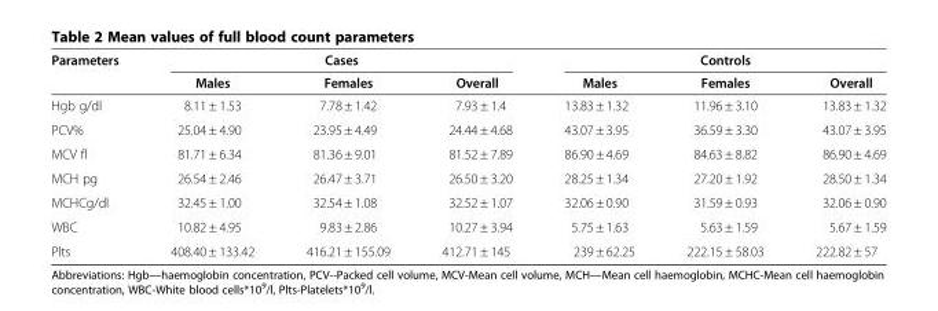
<table><thead><tr><td rowspan="2">Parameters</td><td colspan="3">Cases</td><td colspan="3">Controls</td></tr><tr><td>Males</td><td>Females</td><td>Overall</td><td>Males</td><td>Females</td><td>Overall</td></tr></thead><tbody><tr><td>Hgb g/dl</td><td>8.11 ± 1.53</td><td>7.78 ± 1.42</td><td>7.93 ± 1.4</td><td>13.83 ± 1.32</td><td>11.96 ± 3.10</td><td>13.83 ± 1.32</td></tr><tr><td>PCV%</td><td>25.04 ± 4.90</td><td>23.95 ± 4.49</td><td>24.44 ± 4.68</td><td>43.07 ± 3.95</td><td>36.59 ± 3.30</td><td>43.07 ± 3.95</td></tr><tr><td>MCV fl</td><td>81.71 ± 6.34</td><td>81.36 ± 9.01</td><td>81.52 ± 7.89</td><td>86.90 ± 4.69</td><td>84.63 ± 8.82</td><td>86.90 ± 4.69</td></tr><tr><td>MCH pg</td><td>26.54 ± 2.46</td><td>26.47 ± 3.71</td><td>26.50 ± 3.20</td><td>28.25 ± 1.34</td><td>27.20 ± 1.92</td><td>28.50 ± 1.34</td></tr><tr><td>MCHCg/dl</td><td>32.45 ± 1.00</td><td>32.54 ± 1.08</td><td>32.52 ± 1.07</td><td>32.06 ± 0.90</td><td>31.59 ± 0.93</td><td>32.06 ± 0.90</td></tr><tr><td>WBC</td><td>10.82 ± 4.95</td><td>9.83 ± 2.86</td><td>10.27 ± 3.94</td><td>5.75 ± 1.63</td><td>5.63 ± 1.59</td><td>5.67 ± 1.59</td></tr><tr><td>Plts</td><td>408.40 ± 133.42</td><td>416.21 ± 155.09</td><td>412.71 ± 145</td><td>239 ± 62.25</td><td>222.15 ± 58.03</td><td>222.82 ± 57</td></tr></tbody></table>